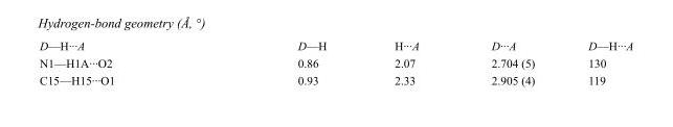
<table><tbody><tr><td>D—H···A</td><td>D—H</td><td>H···A</td><td>D···A</td><td>D—H···A</td></tr><tr><td>N1—H1A···O2</td><td>0.86</td><td>2.07</td><td>2.704 (5)</td><td>130</td></tr><tr><td>C15—H15···O1</td><td>0.93</td><td>2.33</td><td>2.905 (4)</td><td>119</td></tr></tbody></table>